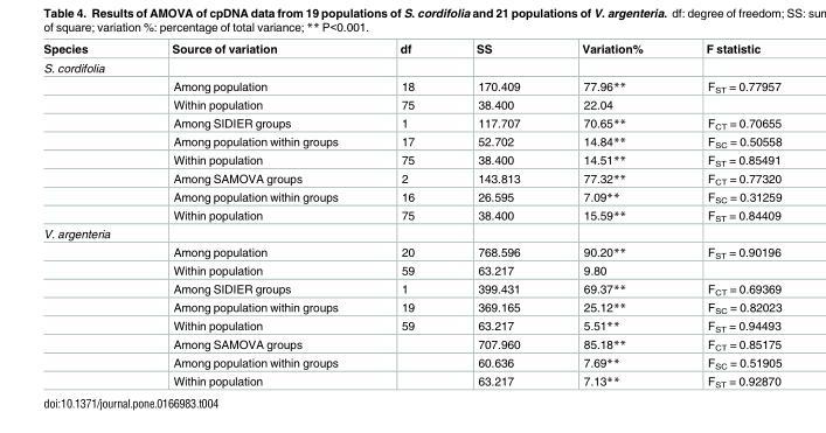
<table><thead><tr><td>Species</td><td>Source of variation</td><td>df</td><td>SS</td><td>Variation%</td><td>F statistic</td></tr></thead><tbody><tr><td colspan="6">S. cordifolia</td></tr><tr><td></td><td>Among population</td><td>18</td><td>170.409</td><td>77.96**</td><td>F<sub>ST</sub> = 0.77957</td></tr><tr><td></td><td>Within population</td><td>75</td><td>38.400</td><td>22.04</td><td></td></tr><tr><td></td><td>Among SIDIER groups</td><td>1</td><td>117.707</td><td>70.65**</td><td>F<sub>CT</sub> = 0.70655</td></tr><tr><td></td><td>Among population within groups</td><td>17</td><td>52.702</td><td>14.84**</td><td>F<sub>SC</sub> = 0.50558</td></tr><tr><td></td><td>Within population</td><td>75</td><td>38.400</td><td>14.51**</td><td>F<sub>ST</sub> = 0.85491</td></tr><tr><td></td><td>Among SAMOVA groups</td><td>2</td><td>143.813</td><td>77.32**</td><td>F<sub>CT</sub> = 0.77320</td></tr><tr><td></td><td>Among population within groups</td><td>16</td><td>26.595</td><td>7.09**</td><td>F<sub>SC</sub> = 0.31259</td></tr><tr><td></td><td>Within population</td><td>75</td><td>38.400</td><td>15.59**</td><td>F<sub>ST</sub> = 0.84409</td></tr><tr><td colspan="6">V. argenteria</td></tr><tr><td></td><td>Among population</td><td>20</td><td>768.596</td><td>90.20**</td><td>F<sub>ST</sub> = 0.90196</td></tr><tr><td></td><td>Within population</td><td>59</td><td>63.217</td><td>9.80</td><td></td></tr><tr><td></td><td>Among SIDIER groups</td><td>1</td><td>399.431</td><td>69.37**</td><td>F<sub>CT</sub> = 0.69369</td></tr><tr><td></td><td>Among population within groups</td><td>19</td><td>369.165</td><td>25.12**</td><td>F<sub>SC</sub> = 0.82023</td></tr><tr><td></td><td>Within population</td><td>59</td><td>63.217</td><td>5.51**</td><td>F<sub>ST</sub> = 0.94493</td></tr><tr><td></td><td>Among SAMOVA groups</td><td></td><td>707.960</td><td>85.18**</td><td>F<sub>CT</sub> = 0.85175</td></tr><tr><td></td><td>Among population within groups</td><td></td><td>60.636</td><td>7.69**</td><td>F<sub>SC</sub> = 0.51905</td></tr><tr><td></td><td>Within population</td><td></td><td>63.217</td><td>7.13**</td><td>F<sub>ST</sub> = 0.92870</td></tr></tbody></table>